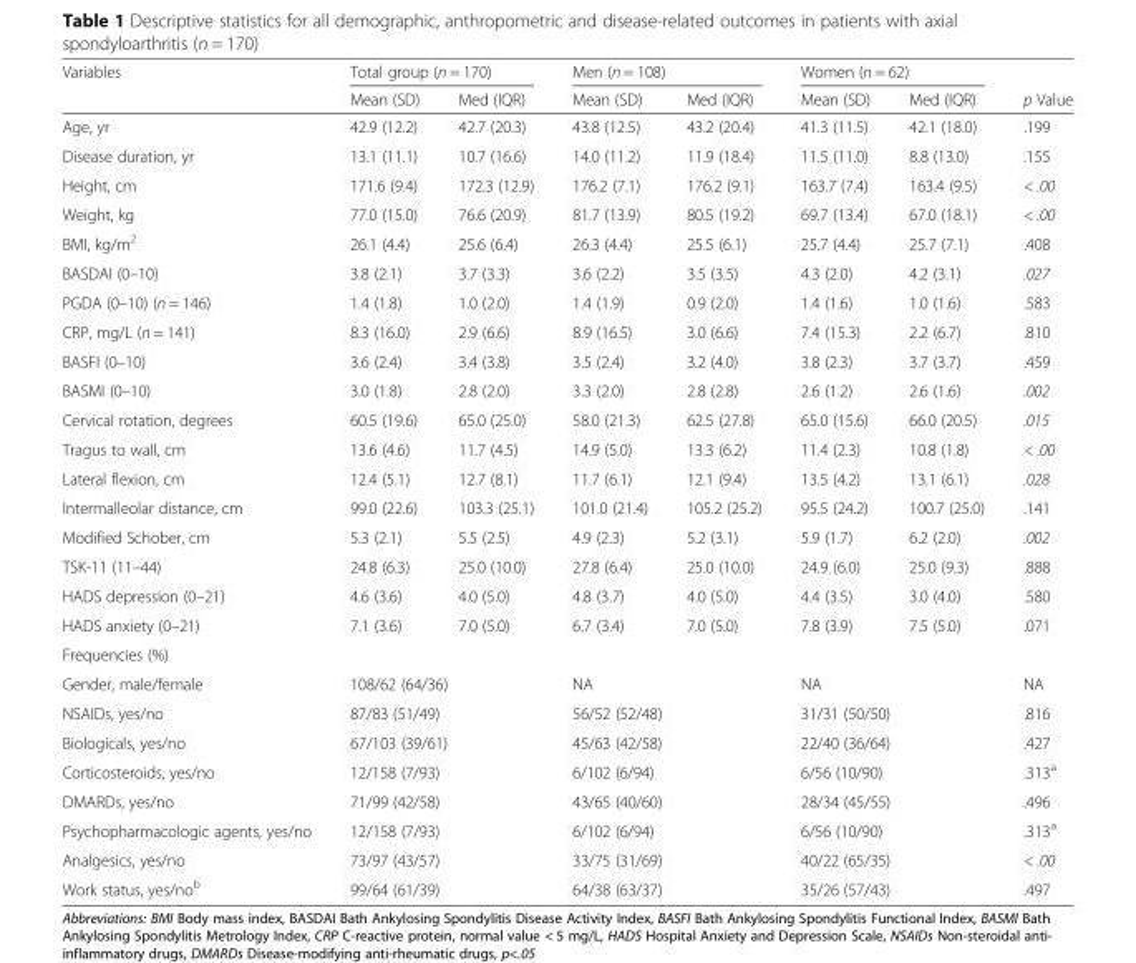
<table><thead><tr><td rowspan="2">Variables</td><td colspan="2">Total group (n = 170)</td><td colspan="2">Men (n = 108)</td><td colspan="2">Women (n = 62)</td><td rowspan="2">p Value</td></tr><tr><td>Mean (SD)</td><td>Med (IQR)</td><td>Mean (SD)</td><td>Med (IQR)</td><td>Mean (SD)</td><td>Med (IQR)</td></tr></thead><tbody><tr><td>Age, yr</td><td>42.9 (12.2)</td><td>42.7 (20.3)</td><td>43.8 (12.5)</td><td>43.2 (20.4)</td><td>41.3 (11.5)</td><td>42.1 (18.0)</td><td>.199</td></tr><tr><td>Disease duration, yr</td><td>13.1 (11.1)</td><td>10.7 (16.6)</td><td>14.0 (11.2)</td><td>11.9 (18.4)</td><td>11.5 (11.0)</td><td>8.8 (13.0)</td><td>.155</td></tr><tr><td>Height, cm</td><td>171.6 (9.4)</td><td>172.3 (12.9)</td><td>176.2 (7.1)</td><td>176.2 (9.1)</td><td>163.7 (7.4)</td><td>163.4 (9.5)</td><td>&lt; .00</td></tr><tr><td>Weight, kg</td><td>77.0 (15.0)</td><td>76.6 (20.9)</td><td>81.7 (13.9)</td><td>80.5 (19.2)</td><td>69.7 (13.4)</td><td>67.0 (18.1)</td><td>&lt; .00</td></tr><tr><td>BMI, kg/m<sup>2</sup></td><td>26.1 (4.4)</td><td>25.6 (6.4)</td><td>26.3 (4.4)</td><td>25.5 (6.1)</td><td>25.7 (4.4)</td><td>25.7 (7.1)</td><td>.408</td></tr><tr><td>BASDAI (0–10)</td><td>3.8 (2.1)</td><td>3.7 (3.3)</td><td>3.6 (2.2)</td><td>3.5 (3.5)</td><td>4.3 (2.0)</td><td>4.2 (3.1)</td><td>.027</td></tr><tr><td>PGDA (0–10) (n = 146)</td><td>1.4 (1.8)</td><td>1.0 (2.0)</td><td>1.4 (1.9)</td><td>0.9 (2.0)</td><td>1.4 (1.6)</td><td>1.0 (1.6)</td><td>.583</td></tr><tr><td>CRP, mg/L (n = 141)</td><td>8.3 (16.0)</td><td>2.9 (6.6)</td><td>8.9 (16.5)</td><td>3.0 (6.6)</td><td>7.4 (15.3)</td><td>2.2 (6.7)</td><td>.810</td></tr><tr><td>BASFI (0–10)</td><td>3.6 (2.4)</td><td>3.4 (3.8)</td><td>3.5 (2.4)</td><td>3.2 (4.0)</td><td>3.8 (2.3)</td><td>3.7 (3.7)</td><td>.459</td></tr><tr><td>BASMI (0–10)</td><td>3.0 (1.8)</td><td>2.8 (2.0)</td><td>3.3 (2.0)</td><td>2.8 (2.8)</td><td>2.6 (1.2)</td><td>2.6 (1.6)</td><td>.002</td></tr><tr><td>Cervical rotation, degrees</td><td>60.5 (19.6)</td><td>65.0 (25.0)</td><td>58.0 (21.3)</td><td>62.5 (27.8)</td><td>65.0 (15.6)</td><td>66.0 (20.5)</td><td>.015</td></tr><tr><td>Tragus to wall, cm</td><td>13.6 (4.6)</td><td>11.7 (4.5)</td><td>14.9 (5.0)</td><td>13.3 (6.2)</td><td>11.4 (2.3)</td><td>10.8 (1.8)</td><td>&lt; .00</td></tr><tr><td>Lateral flexion, cm</td><td>12.4 (5.1)</td><td>12.7 (8.1)</td><td>11.7 (6.1)</td><td>12.1 (9.4)</td><td>13.5 (4.2)</td><td>13.1 (6.1)</td><td>.028</td></tr><tr><td>Intermalleolar distance, cm</td><td>99.0 (22.6)</td><td>103.3 (25.1)</td><td>101.0 (21.4)</td><td>105.2 (25.2)</td><td>95.5 (24.2)</td><td>100.7 (25.0)</td><td>.141</td></tr><tr><td>Modified Schober, cm</td><td>5.3 (2.1)</td><td>5.5 (2.5)</td><td>4.9 (2.3)</td><td>5.2 (3.1)</td><td>5.9 (1.7)</td><td>6.2 (2.0)</td><td>.002</td></tr><tr><td>TSK-11 (11–44)</td><td>24.8 (6.3)</td><td>25.0 (10.0)</td><td>27.8 (6.4)</td><td>25.0 (10.0)</td><td>24.9 (6.0)</td><td>25.0 (9.3)</td><td>.888</td></tr><tr><td>HADS depression (0–21)</td><td>4.6 (3.6)</td><td>4.0 (5.0)</td><td>4.8 (3.7)</td><td>4.0 (5.0)</td><td>4.4 (3.5)</td><td>3.0 (4.0)</td><td>.580</td></tr><tr><td>HADS anxiety (0–21)</td><td>7.1 (3.6)</td><td>7.0 (5.0)</td><td>6.7 (3.4)</td><td>7.0 (5.0)</td><td>7.8 (3.9)</td><td>7.5 (5.0)</td><td>.071</td></tr><tr><td colspan="8">Frequencies (%)</td></tr><tr><td>Gender, male/female</td><td colspan="2">108/62 (64/36)</td><td colspan="2">NA</td><td colspan="2">NA</td><td>NA</td></tr><tr><td>NSAIDs, yes/no</td><td colspan="2">87/83 (51/49)</td><td colspan="2">56/52 (52/48)</td><td colspan="2">31/31 (50/50)</td><td>.816</td></tr><tr><td>Biologicals, yes/no</td><td colspan="2">67/103 (39/61)</td><td colspan="2">45/63 (42/58)</td><td colspan="2">22/40 (36/64)</td><td>.427</td></tr><tr><td>Corticosteroids, yes/no</td><td colspan="2">12/158 (7/93)</td><td colspan="2">6/102 (6/94)</td><td colspan="2">6/56 (10/90)</td><td>.313<sup>a</sup></td></tr><tr><td>DMARDs, yes/no</td><td colspan="2">71/99 (42/58)</td><td colspan="2">43/65 (40/60)</td><td colspan="2">28/34 (45/55)</td><td>.496</td></tr><tr><td>Psychopharmacologic agents, yes/no</td><td colspan="2">12/158 (7/93)</td><td colspan="2">6/102 (6/94)</td><td colspan="2">6/56 (10/90)</td><td>.313<sup>a</sup></td></tr><tr><td>Analgesics, yes/no</td><td colspan="2">73/97 (43/57)</td><td colspan="2">33/75 (31/69)</td><td colspan="2">40/22 (65/35)</td><td>&lt; .00</td></tr><tr><td>Work status, yes/no<sup>b</sup></td><td colspan="2">99/64 (61/39)</td><td colspan="2">64/38 (63/37)</td><td colspan="2">35/26 (57/43)</td><td>.497</td></tr></tbody></table>